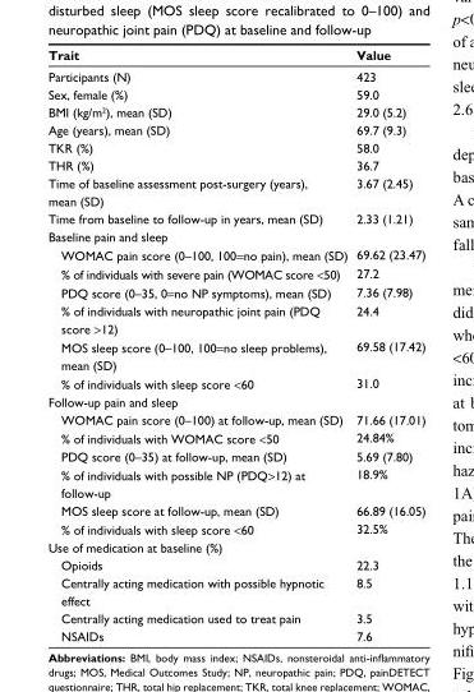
<table><thead><tr><td>Trait</td><td>Value</td></tr></thead><tbody><tr><td>Participants (N)</td><td>423</td></tr><tr><td>Sex, female (%)</td><td>59.0</td></tr><tr><td>BMI (kg/m<sup>2</sup>), mean (SD)</td><td>29.0 (5.2)</td></tr><tr><td>Age (years), mean (SD)</td><td>69.7 (9.3)</td></tr><tr><td>TKR (%)</td><td>58.0</td></tr><tr><td>THR (%)</td><td>36.7</td></tr><tr><td>Time of baseline assessment post-surgery (years), mean (SD)</td><td>3.67 (2.45)</td></tr><tr><td>Time from baseline to follow-up in years, mean (SD)</td><td>2.33 (1.21)</td></tr><tr><td colspan="2">Baseline pain and sleep</td></tr><tr><td>WOMAC pain score (0–100, 100=no pain), mean (SD)</td><td>69.62 (23.47)</td></tr><tr><td>% of individuals with severe pain (WOMAC score &lt;50)</td><td>27.2</td></tr><tr><td>PDQ score (0–35, 0=no NP symptoms), mean (SD)</td><td>7.36 (7.98)</td></tr><tr><td>% of individuals with neuropathic joint pain (PDQ score &gt;12)</td><td>24.4</td></tr><tr><td>MOS sleep score (0–100, 100=no sleep problems), mean (SD)</td><td>69.58 (17.42)</td></tr><tr><td>% of individuals with sleep score &lt;60</td><td>31.0</td></tr><tr><td colspan="2">Follow-up pain and sleep</td></tr><tr><td>WOMAC pain score (0–100) at follow-up, mean (SD)</td><td>71.66 (17.01)</td></tr><tr><td>% of individuals with WOMAC score &lt;50</td><td>24.84%</td></tr><tr><td>PDQ score (0–35) at follow-up, mean (SD)</td><td>5.69 (7.80)</td></tr><tr><td>% of individuals with possible NP (PDQ&gt;12) at follow-up</td><td>18.9%</td></tr><tr><td>MOS sleep score at follow-up, mean (SD)</td><td>66.89 (16.05)</td></tr><tr><td>% of individuals with sleep score &lt;60</td><td>32.5%</td></tr><tr><td colspan="2">Use of medication at baseline (%)</td></tr><tr><td>Opioids</td><td>22.3</td></tr><tr><td>Centrally acting medication with possible hypnotic effect</td><td>8.5</td></tr><tr><td>Centrally acting medication used to treat pain</td><td>3.5</td></tr><tr><td>NSAIDs</td><td>7.6</td></tr></tbody></table>